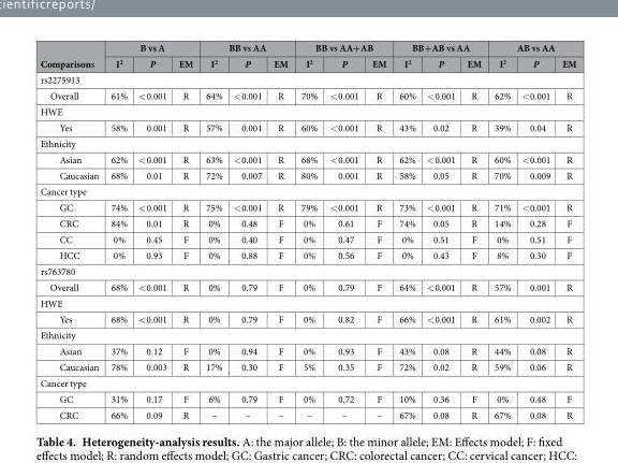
<table><thead><tr><td rowspan="2">Comparisons</td><td colspan="3">B vs A</td><td colspan="3">BB vs AA</td><td colspan="3">BB vs AA+AB</td><td colspan="3">BB+AB vs AA</td><td colspan="3">AB vs AA</td></tr><tr><td>I<sup>2</sup></td><td>P</td><td>EM</td><td>I<sup>2</sup></td><td>P</td><td>EM</td><td>I<sup>2</sup></td><td>P</td><td>EM</td><td>I<sup>2</sup></td><td>P</td><td>EM</td><td>I<sup>2</sup></td><td>P</td><td>EM</td></tr></thead><tbody><tr><td colspan="16">rs2275913</td></tr><tr><td>Overall</td><td>61%</td><td>&lt; 0.001</td><td>R</td><td>64%</td><td>&lt; 0.001</td><td>R</td><td>70%</td><td>&lt; 0.001</td><td>R</td><td>60%</td><td>&lt; 0.001</td><td>R</td><td>62%</td><td>&lt; 0.001</td><td>R</td></tr><tr><td colspan="16">HWE</td></tr><tr><td>Yes</td><td>58%</td><td>0.001</td><td>R</td><td>57%</td><td>0.001</td><td>R</td><td>60%</td><td>&lt; 0.001</td><td>R</td><td>43%</td><td>0.02</td><td>R</td><td>39%</td><td>0.04</td><td>R</td></tr><tr><td colspan="16">Ethnicity</td></tr><tr><td>Asian</td><td>62%</td><td>&lt; 0.001</td><td>R</td><td>63%</td><td>&lt; 0.001</td><td>R</td><td>68%</td><td>&lt; 0.001</td><td>R</td><td>62%</td><td>&lt; 0.001</td><td>R</td><td>60%</td><td>&lt; 0.001</td><td>R</td></tr><tr><td>Caucasian</td><td>68%</td><td>0.01</td><td>R</td><td>72%</td><td>0.007</td><td>R</td><td>80%</td><td>0.001</td><td>R</td><td>58%</td><td>0.05</td><td>R</td><td>70%</td><td>0.009</td><td>R</td></tr><tr><td colspan="16">Cancer type</td></tr><tr><td>GC</td><td>74%</td><td>&lt; 0.001</td><td>R</td><td>75%</td><td>&lt; 0.001</td><td>R</td><td>79%</td><td>&lt; 0.001</td><td>R</td><td>73%</td><td>&lt; 0.001</td><td>R</td><td>71%</td><td>&lt; 0.001</td><td>R</td></tr><tr><td>CRC</td><td>84%</td><td>0.01</td><td>R</td><td>0%</td><td>0.48</td><td>F</td><td>0%</td><td>0.61</td><td>F</td><td>74%</td><td>0.05</td><td>R</td><td>14%</td><td>0.28</td><td>F</td></tr><tr><td>CC</td><td>0%</td><td>0.45</td><td>F</td><td>0%</td><td>0.40</td><td>F</td><td>0%</td><td>0.47</td><td>F</td><td>0%</td><td>0.51</td><td>F</td><td>0%</td><td>0.51</td><td>F</td></tr><tr><td>HCC</td><td>0%</td><td>0.93</td><td>F</td><td>0%</td><td>0.88</td><td>F</td><td>0%</td><td>0.56</td><td>F</td><td>0%</td><td>0.43</td><td>F</td><td>8%</td><td>0.30</td><td>F</td></tr><tr><td colspan="16">rs763780</td></tr><tr><td>Overall</td><td>68%</td><td>&lt; 0.001</td><td>R</td><td>0%</td><td>0.79</td><td>F</td><td>0%</td><td>0.79</td><td>F</td><td>64%</td><td>&lt; 0.001</td><td>R</td><td>57%</td><td>0.001</td><td>R</td></tr><tr><td colspan="16">HWE</td></tr><tr><td>Yes</td><td>68%</td><td>&lt; 0.001</td><td>R</td><td>0%</td><td>0.79</td><td>F</td><td>0%</td><td>0.82</td><td>F</td><td>66%</td><td>&lt; 0.001</td><td>R</td><td>61%</td><td>0.002</td><td>R</td></tr><tr><td colspan="16">Ethnicity</td></tr><tr><td>Asian</td><td>37%</td><td>0.12</td><td>F</td><td>0%</td><td>0.94</td><td>F</td><td>0%</td><td>0.93</td><td>F</td><td>43%</td><td>0.08</td><td>R</td><td>44%</td><td>0.08</td><td>R</td></tr><tr><td>Caucasian</td><td>78%</td><td>0.003</td><td>R</td><td>17%</td><td>0.30</td><td>F</td><td>5%</td><td>0.35</td><td>F</td><td>72%</td><td>0.02</td><td>R</td><td>59%</td><td>0.06</td><td>R</td></tr><tr><td colspan="16">Cancer type</td></tr><tr><td>GC</td><td>31%</td><td>0.17</td><td>F</td><td>6%</td><td>0.79</td><td>F</td><td>0%</td><td>0.72</td><td>F</td><td>10%</td><td>0.36</td><td>F</td><td>0%</td><td>0.48</td><td>F</td></tr><tr><td>CRC</td><td>66%</td><td>0.09</td><td>R</td><td>–</td><td>–</td><td>–</td><td>–</td><td>–</td><td>–</td><td>67%</td><td>0.08</td><td>R</td><td>67%</td><td>0.08</td><td>R</td></tr></tbody></table>